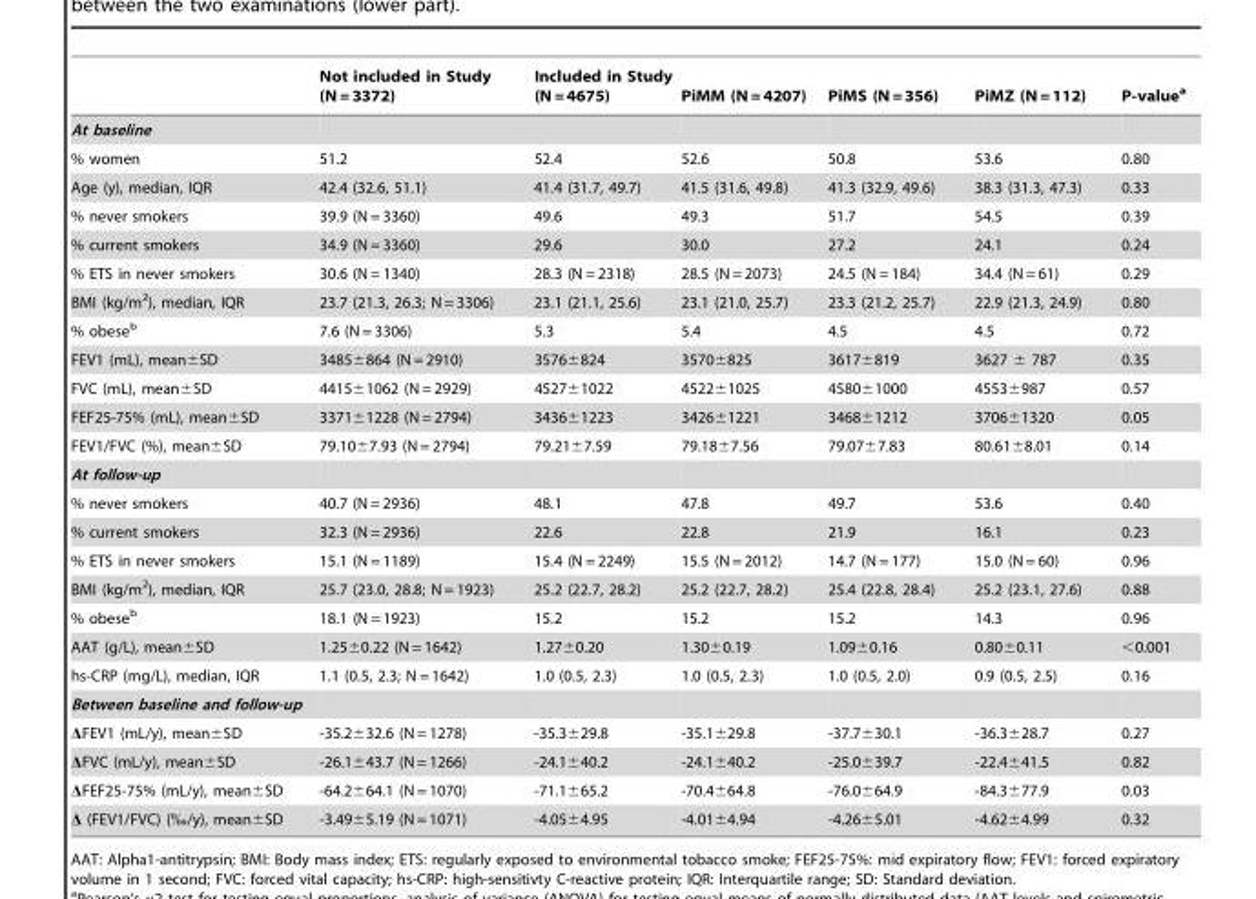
<table><thead><tr><td></td><td>Not included in Study (N = 3372)</td><td>Included in Study (N = 4675)</td><td>PiMM (N = 4207)</td><td>PiMS (N = 356)</td><td>PiMZ (N = 112)</td><td>P-value<sup>a</sup></td></tr></thead><tbody><tr><td colspan="7">At baseline</td></tr><tr><td>% women</td><td>51.2</td><td>52.4</td><td>52.6</td><td>50.8</td><td>53.6</td><td>0.80</td></tr><tr><td>Age (y), median, IQR</td><td>42.4 (32.6, 51.1)</td><td>41.4 (31.7, 49.7)</td><td>41.5 (31.6, 49.8)</td><td>41.3 (32.9, 49.6)</td><td>38.3 (31.3, 47.3)</td><td>0.33</td></tr><tr><td>% never smokers</td><td>39.9 (N = 3360)</td><td>49.6</td><td>49.3</td><td>51.7</td><td>54.5</td><td>0.39</td></tr><tr><td>% current smokers</td><td>34.9 (N = 3360)</td><td>29.6</td><td>30.0</td><td>27.2</td><td>24.1</td><td>0.24</td></tr><tr><td>% ETS in never smokers</td><td>30.6 (N = 1340)</td><td>28.3 (N = 2318)</td><td>28.5 (N = 2073)</td><td>24.5 (N = 184)</td><td>34.4 (N = 61)</td><td>0.29</td></tr><tr><td>BMI (kg/m<sup>2</sup>), median, IQR</td><td>23.7 (21.3, 26.3; N = 3306)</td><td>23.1 (21.1, 25.6)</td><td>23.1 (21.0, 25.7)</td><td>23.3 (21.2, 25.7)</td><td>22.9 (21.3, 24.9)</td><td>0.80</td></tr><tr><td>% obese<sup>b</sup></td><td>7.6 (N = 3306)</td><td>5.3</td><td>5.4</td><td>4.5</td><td>4.5</td><td>0.72</td></tr><tr><td>FEV1 (mL), mean±SD</td><td>3485±864 (N = 2910)</td><td>3576±824</td><td>3570±825</td><td>3617±819</td><td>3627 ± 787</td><td>0.35</td></tr><tr><td>FVC (mL), mean±SD</td><td>4415±1062 (N = 2929)</td><td>4527±1022</td><td>4522±1025</td><td>4580±1000</td><td>4553±987</td><td>0.57</td></tr><tr><td>FEF25-75% (mL), mean±SD</td><td>3371±1228 (N = 2794)</td><td>3436±1223</td><td>3426±1221</td><td>3468±1212</td><td>3706±1320</td><td>0.05</td></tr><tr><td>FEV1/FVC (%), mean±SD</td><td>79.10±7.93 (N = 2794)</td><td>79.21±7.59</td><td>79.18±7.56</td><td>79.07±7.83</td><td>80.61±8.01</td><td>0.14</td></tr><tr><td colspan="7">At follow-up</td></tr><tr><td>% never smokers</td><td>40.7 (N = 2936)</td><td>48.1</td><td>47.8</td><td>49.7</td><td>53.6</td><td>0.40</td></tr><tr><td>% current smokers</td><td>32.3 (N = 2936)</td><td>22.6</td><td>22.8</td><td>21.9</td><td>16.1</td><td>0.23</td></tr><tr><td>% ETS in never smokers</td><td>15.1 (N = 1189)</td><td>15.4 (N = 2249)</td><td>15.5 (N = 2012)</td><td>14.7 (N = 177)</td><td>15.0 (N = 60)</td><td>0.96</td></tr><tr><td>BMI (kg/m<sup>2</sup>), median, IQR</td><td>25.7 (23.0, 28.8; N = 1923)</td><td>25.2 (22.7, 28.2)</td><td>25.2 (22.7, 28.2)</td><td>25.4 (22.8, 28.4)</td><td>25.2 (23.1, 27.6)</td><td>0.88</td></tr><tr><td>% obese<sup>b</sup></td><td>18.1 (N = 1923)</td><td>15.2</td><td>15.2</td><td>15.2</td><td>14.3</td><td>0.96</td></tr><tr><td>AAT (g/L), mean±SD</td><td>1.25±0.22 (N = 1642)</td><td>1.27±0.20</td><td>1.30±0.19</td><td>1.09±0.16</td><td>0.80±0.11</td><td>&lt;0.001</td></tr><tr><td>hs-CRP (mg/L), median, IQR</td><td>1.1 (0.5, 2.3; N = 1642)</td><td>1.0 (0.5, 2.3)</td><td>1.0 (0.5, 2.3)</td><td>1.0 (0.5, 2.0)</td><td>0.9 (0.5, 2.5)</td><td>0.16</td></tr><tr><td colspan="7">Between baseline and follow-up</td></tr><tr><td>ΔFEV1 (mL/y), mean±SD</td><td>-35.2±32.6 (N = 1278)</td><td>-35.3±29.8</td><td>-35.1±29.8</td><td>-37.7±30.1</td><td>-36.3±28.7</td><td>0.27</td></tr><tr><td>ΔFVC (mL/y), mean±SD</td><td>-26.1±43.7 (N = 1266)</td><td>-24.1±40.2</td><td>-24.1±40.2</td><td>-25.0±39.7</td><td>-22.4±41.5</td><td>0.82</td></tr><tr><td>ΔFEF25-75% (mL/y), mean±SD</td><td>-64.2±64.1 (N = 1070)</td><td>-71.1±65.2</td><td>-70.4±64.8</td><td>-76.0±64.9</td><td>-84.3±77.9</td><td>0.03</td></tr><tr><td>Δ (FEV1/FVC) (‰/y), mean±SD</td><td>-3.49±5.19 (N = 1071)</td><td>-4.05±4.95</td><td>-4.01±4.94</td><td>-4.26±5.01</td><td>-4.62±4.99</td><td>0.32</td></tr></tbody></table>